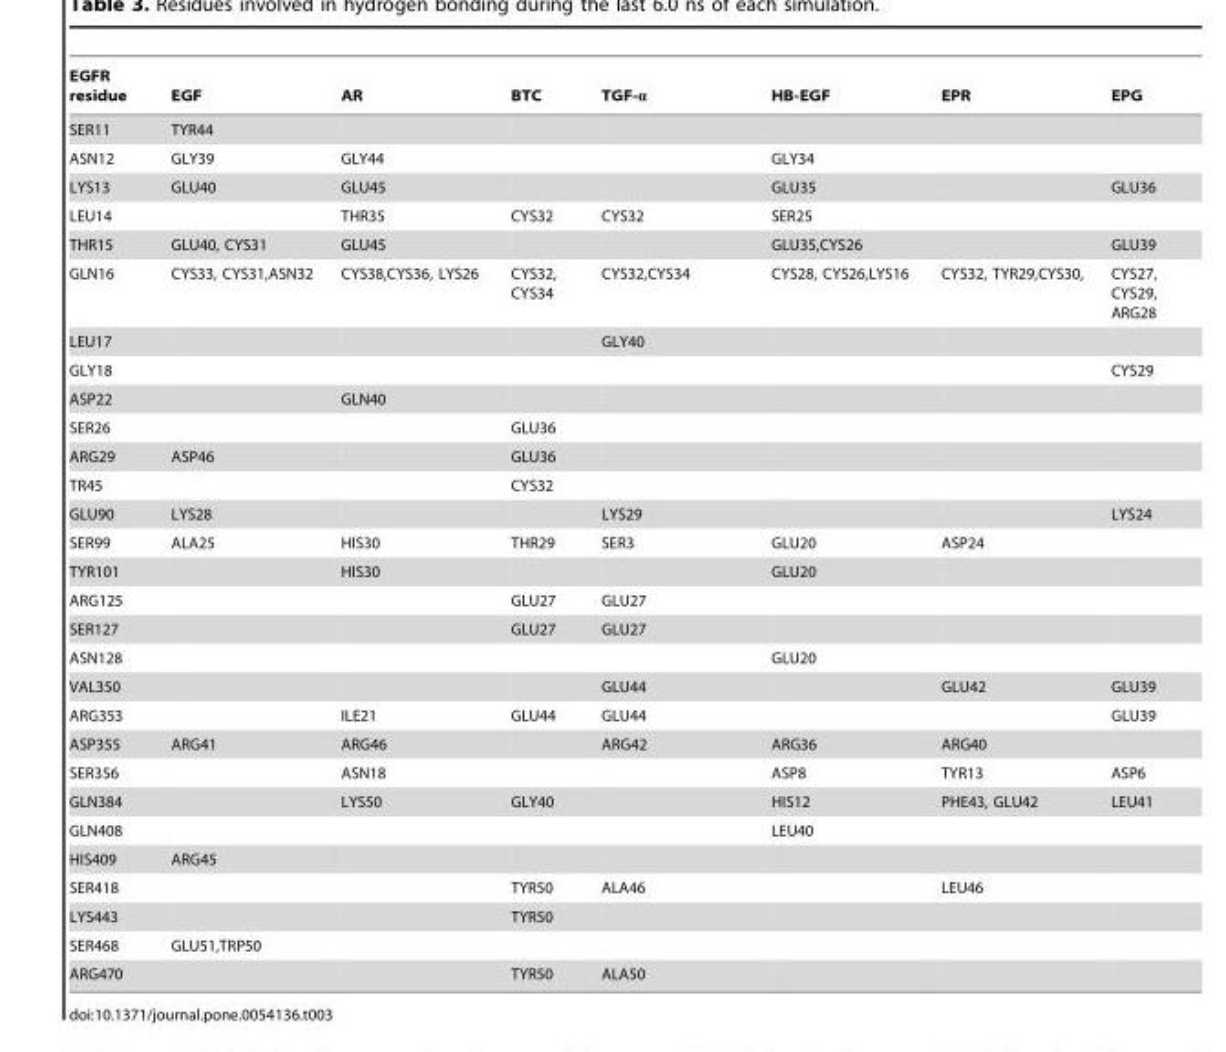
<table><thead><tr><td>EGFR residue</td><td>EGF</td><td>AR</td><td>BTC</td><td>TGF-α</td><td>HB-EGF</td><td>EPR</td><td>EPG</td></tr></thead><tbody><tr><td>SER11</td><td>TYR44</td><td></td><td></td><td></td><td></td><td></td><td></td></tr><tr><td>ASN12</td><td>GLY39</td><td>GLY44</td><td></td><td></td><td>GLY34</td><td></td><td></td></tr><tr><td>LYS13</td><td>GLU40</td><td>GLU45</td><td></td><td></td><td>GLU35</td><td></td><td>GLU36</td></tr><tr><td>LEU14</td><td></td><td>THR35</td><td>CYS32</td><td>CYS32</td><td>SER25</td><td></td><td></td></tr><tr><td>THR15</td><td>GLU40, CYS31</td><td>GLU45</td><td></td><td></td><td>GLU35,CYS26</td><td></td><td>GLU39</td></tr><tr><td>GLN16</td><td>CYS33, CYS31,ASN32</td><td>CYS38,CYS36, LYS26</td><td>CYS32, CYS34</td><td>CYS32,CYS34</td><td>CYS28, CYS26,LYS16</td><td>CYS32, TYR29,CYS30,</td><td>CYS27, CYS29, ARG28</td></tr><tr><td>LEU17</td><td></td><td></td><td></td><td>GLY40</td><td></td><td></td><td></td></tr><tr><td>GLY18</td><td></td><td></td><td></td><td></td><td></td><td></td><td>CYS29</td></tr><tr><td>ASP22</td><td></td><td>GLN40</td><td></td><td></td><td></td><td></td><td></td></tr><tr><td>SER26</td><td></td><td></td><td>GLU36</td><td></td><td></td><td></td><td></td></tr><tr><td>ARG29</td><td>ASP46</td><td></td><td>GLU36</td><td></td><td></td><td></td><td></td></tr><tr><td>TR45</td><td></td><td></td><td>CYS32</td><td></td><td></td><td></td><td></td></tr><tr><td>GLU90</td><td>LYS28</td><td></td><td></td><td>LYS29</td><td></td><td></td><td>LYS24</td></tr><tr><td>SER99</td><td>ALA25</td><td>HIS30</td><td>THR29</td><td>SER3</td><td>GLU20</td><td>ASP24</td><td></td></tr><tr><td>TYR101</td><td></td><td>HIS30</td><td></td><td></td><td>GLU20</td><td></td><td></td></tr><tr><td>ARG125</td><td></td><td></td><td>GLU27</td><td>GLU27</td><td></td><td></td><td></td></tr><tr><td>SER127</td><td></td><td></td><td>GLU27</td><td>GLU27</td><td></td><td></td><td></td></tr><tr><td>ASN128</td><td></td><td></td><td></td><td></td><td>GLU20</td><td></td><td></td></tr><tr><td>VAL350</td><td></td><td></td><td></td><td>GLU44</td><td></td><td>GLU42</td><td>GLU39</td></tr><tr><td>ARG353</td><td></td><td>ILE21</td><td>GLU44</td><td>GLU44</td><td></td><td></td><td>GLU39</td></tr><tr><td>ASP355</td><td>ARG41</td><td>ARG46</td><td></td><td>ARG42</td><td>ARG36</td><td>ARG40</td><td></td></tr><tr><td>SER356</td><td></td><td>ASN18</td><td></td><td></td><td>ASP8</td><td>TYR13</td><td>ASP6</td></tr><tr><td>GLN384</td><td></td><td>LYS50</td><td>GLY40</td><td></td><td>HIS12</td><td>PHE43, GLU42</td><td>LEU41</td></tr><tr><td>GLN408</td><td></td><td></td><td></td><td></td><td>LEU40</td><td></td><td></td></tr><tr><td>HIS409</td><td>ARG45</td><td></td><td></td><td></td><td></td><td></td><td></td></tr><tr><td>SER418</td><td></td><td></td><td>TYR50</td><td>ALA46</td><td></td><td>LEU46</td><td></td></tr><tr><td>LYS443</td><td></td><td></td><td>TYR50</td><td></td><td></td><td></td><td></td></tr><tr><td>SER468</td><td>GLU51,TRP50</td><td></td><td></td><td></td><td></td><td></td><td></td></tr><tr><td>ARG470</td><td></td><td></td><td>TYR50</td><td>ALA50</td><td></td><td></td><td></td></tr></tbody></table>